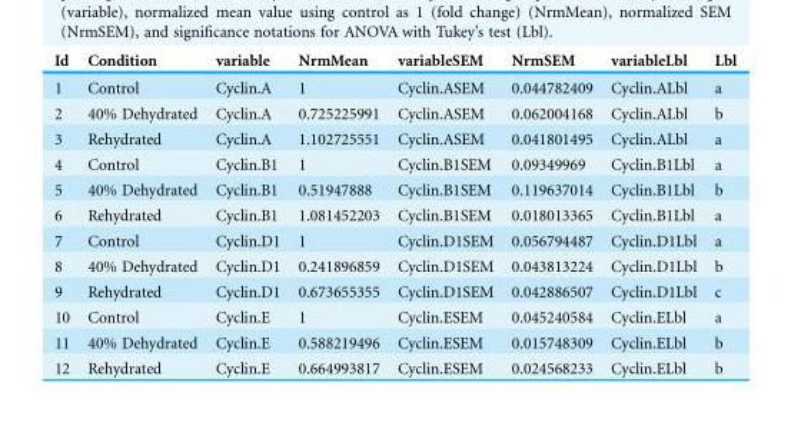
<table><thead><tr><td>Id</td><td>Condition</td><td>variable</td><td>NrmMean</td><td>variableSEM</td><td>NrmSEM</td><td>variableLbl</td><td>Lbl</td></tr></thead><tbody><tr><td>1</td><td>Control</td><td>Cyclin.A</td><td>1</td><td>Cyclin.ASEM</td><td>0.044782409</td><td>Cyclin.ALbl</td><td>a</td></tr><tr><td>2</td><td>40% Dehydrated</td><td>Cyclin.A</td><td>0.725225991</td><td>Cyclin.ASEM</td><td>0.062004168</td><td>Cyclin.ALbl</td><td>b</td></tr><tr><td>3</td><td>Rehydrated</td><td>Cyclin.A</td><td>1.102725551</td><td>Cyclin.ASEM</td><td>0.041801495</td><td>Cyclin.ALbl</td><td>a</td></tr><tr><td>4</td><td>Control</td><td>Cyclin.B1</td><td>1</td><td>Cyclin.B1SEM</td><td>0.09349969</td><td>Cyclin.B1Lbl</td><td>a</td></tr><tr><td>5</td><td>40% Dehydrated</td><td>Cyclin.B1</td><td>0.51947888</td><td>Cyclin.B1SEM</td><td>0.119637014</td><td>Cyclin.B1Lbl</td><td>b</td></tr><tr><td>6</td><td>Rehydrated</td><td>Cyclin.B1</td><td>1.081452203</td><td>Cyclin.B1SEM</td><td>0.018013365</td><td>Cyclin.B1Lbl</td><td>a</td></tr><tr><td>7</td><td>Control</td><td>Cyclin.D1</td><td>1</td><td>Cyclin.D1SEM</td><td>0.056794487</td><td>Cyclin.D1Lbl</td><td>a</td></tr><tr><td>8</td><td>40% Dehydrated</td><td>Cyclin.D1</td><td>0.241896859</td><td>Cyclin.D1SEM</td><td>0.043813224</td><td>Cyclin.D1Lbl</td><td>b</td></tr><tr><td>9</td><td>Rehydrated</td><td>Cyclin.D1</td><td>0.673655355</td><td>Cyclin.D1SEM</td><td>0.042886507</td><td>Cyclin.D1Lbl</td><td>c</td></tr><tr><td>10</td><td>Control</td><td>Cyclin.E</td><td>1</td><td>Cyclin.ESEM</td><td>0.045240584</td><td>Cyclin.ELbl</td><td>a</td></tr><tr><td>11</td><td>40% Dehydrated</td><td>Cyclin.E</td><td>0.588219496</td><td>Cyclin.ESEM</td><td>0.015748309</td><td>Cyclin.ELbl</td><td>b</td></tr><tr><td>12</td><td>Rehydrated</td><td>Cyclin.E</td><td>0.664993817</td><td>Cyclin.ESEM</td><td>0.024568233</td><td>Cyclin.ELbl</td><td>b</td></tr></tbody></table>